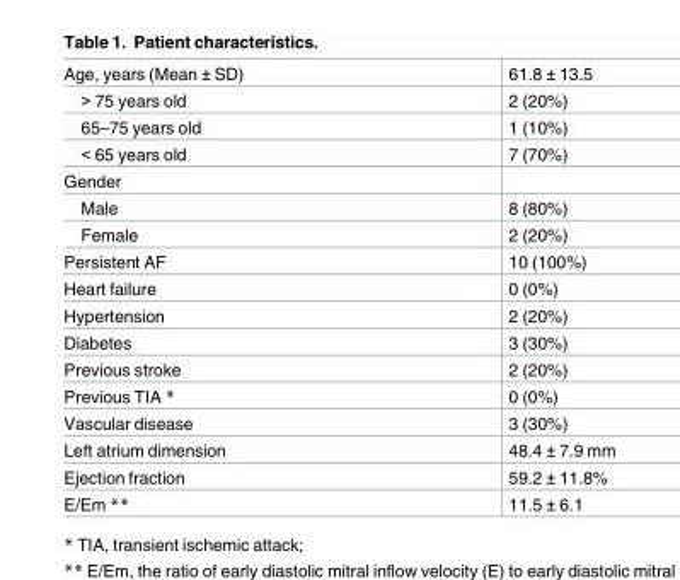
<table><tbody><tr><td>Age, years (Mean ± SD)</td><td>61.8 ± 13.5</td></tr><tr><td>&gt; 75 years old</td><td>2 (20%)</td></tr><tr><td>65–75 years old</td><td>1 (10%)</td></tr><tr><td>&lt; 65 years old</td><td>7 (70%)</td></tr><tr><td colspan="2">Gender</td></tr><tr><td>Male</td><td>8 (80%)</td></tr><tr><td>Female</td><td>2 (20%)</td></tr><tr><td>Persistent AF</td><td>10 (100%)</td></tr><tr><td>Heart failure</td><td>0 (0%)</td></tr><tr><td>Hypertension</td><td>2 (20%)</td></tr><tr><td>Diabetes</td><td>3 (30%)</td></tr><tr><td>Previous stroke</td><td>2 (20%)</td></tr><tr><td>Previous TIA *</td><td>0 (0%)</td></tr><tr><td>Vascular disease</td><td>3 (30%)</td></tr><tr><td>Left atrium dimension</td><td>48.4 ± 7.9 mm</td></tr><tr><td>Ejection fraction</td><td>59.2 ± 11.8%</td></tr><tr><td>E/Em **</td><td>11.5 ± 6.1</td></tr></tbody></table>